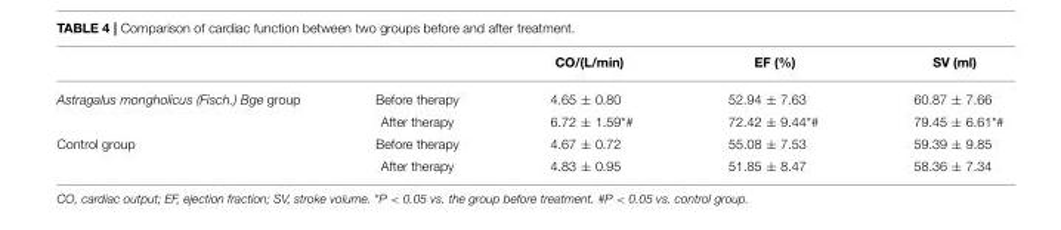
<table><thead><tr><td></td><td></td><td>CO/(L/min)</td><td>EF (%)</td><td>SV (ml)</td></tr></thead><tbody><tr><td rowspan="2">Astragalus mongholicus (Fisch.) Bge group</td><td>Before therapy</td><td>4.65 ± 0.80</td><td>52.94 ± 7.63</td><td>60.87 ± 7.66</td></tr><tr><td>After therapy</td><td>6.72 ± 1.59<sup>*#</sup></td><td>72.42 ± 9.44<sup>*#</sup></td><td>79.45 ± 6.61<sup>*#</sup></td></tr><tr><td rowspan="2">Control group</td><td>Before therapy</td><td>4.67 ± 0.72</td><td>55.08 ± 7.53</td><td>59.39 ± 9.85</td></tr><tr><td>After therapy</td><td>4.83 ± 0.95</td><td>51.85 ± 8.47</td><td>58.36 ± 7.34</td></tr></tbody></table>